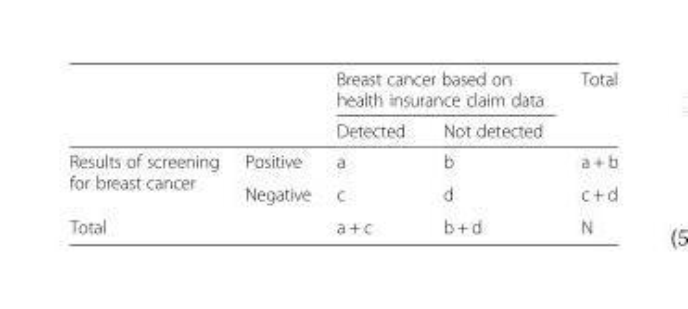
<table><thead><tr><td rowspan="2"></td><td rowspan="2"></td><td colspan="2">Breast cancer based on health insurance claim data</td><td rowspan="2">Total</td></tr><tr><td>Detected</td><td>Not detected</td></tr></thead><tbody><tr><td rowspan="2">Results of screening for breast cancer</td><td>Positive</td><td>a</td><td>b</td><td>a + b</td></tr><tr><td>Negative</td><td>c</td><td>d</td><td>c + d</td></tr><tr><td colspan="2">Total</td><td>a + c</td><td>b + d</td><td>N</td></tr></tbody></table>